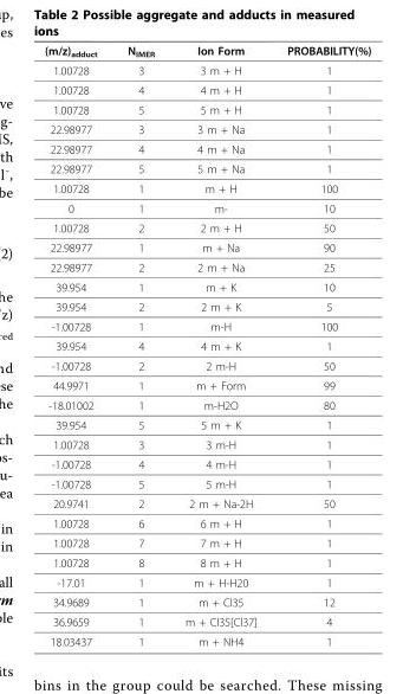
<table><thead><tr><td>(m/z)<sub>adduct</sub></td><td>N<sub>IMER</sub></td><td>Ion Form</td><td>PROBABILITY(%)</td></tr></thead><tbody><tr><td>1.00728</td><td>3</td><td>3 m + H</td><td>1</td></tr><tr><td>1.00728</td><td>4</td><td>4 m + H</td><td>1</td></tr><tr><td>1.00728</td><td>5</td><td>5 m + H</td><td>1</td></tr><tr><td>22.98977</td><td>3</td><td>3 m + Na</td><td>1</td></tr><tr><td>22.98977</td><td>4</td><td>4 m + Na</td><td>1</td></tr><tr><td>22.98977</td><td>5</td><td>5 m + Na</td><td>1</td></tr><tr><td>1.00728</td><td>1</td><td>m + H</td><td>100</td></tr><tr><td>0</td><td>1</td><td>m-</td><td>10</td></tr><tr><td>1.00728</td><td>2</td><td>2 m + H</td><td>50</td></tr><tr><td>22.98977</td><td>1</td><td>m + Na</td><td>90</td></tr><tr><td>22.98977</td><td>2</td><td>2 m + Na</td><td>25</td></tr><tr><td>39.954</td><td>1</td><td>m + K</td><td>10</td></tr><tr><td>39.954</td><td>2</td><td>2 m + K</td><td>5</td></tr><tr><td>-1.00728</td><td>1</td><td>m-H</td><td>100</td></tr><tr><td>39.954</td><td>4</td><td>4 m + K</td><td>1</td></tr><tr><td>-1.00728</td><td>2</td><td>2 m-H</td><td>50</td></tr><tr><td>44.9971</td><td>1</td><td>m + Form</td><td>99</td></tr><tr><td>-18.01002</td><td>1</td><td>m-H2O</td><td>80</td></tr><tr><td>39.954</td><td>5</td><td>5 m + K</td><td>1</td></tr><tr><td>1.00728</td><td>3</td><td>3 m-H</td><td>1</td></tr><tr><td>-1.00728</td><td>4</td><td>4 m-H</td><td>1</td></tr><tr><td>-1.00728</td><td>5</td><td>5 m-H</td><td>1</td></tr><tr><td>20.9741</td><td>2</td><td>2 m + Na-2H</td><td>50</td></tr><tr><td>1.00728</td><td>6</td><td>6 m + H</td><td>1</td></tr><tr><td>1.00728</td><td>7</td><td>7 m + H</td><td>1</td></tr><tr><td>1.00728</td><td>8</td><td>8 m + H</td><td>1</td></tr><tr><td>-17.01</td><td>1</td><td>m + H-H20</td><td>1</td></tr><tr><td>34.9689</td><td>1</td><td>m + Cl35</td><td>12</td></tr><tr><td>36.9659</td><td>1</td><td>m + Cl35[Cl37]</td><td>4</td></tr><tr><td>18.03437</td><td>1</td><td>m + NH4</td><td>1</td></tr></tbody></table>